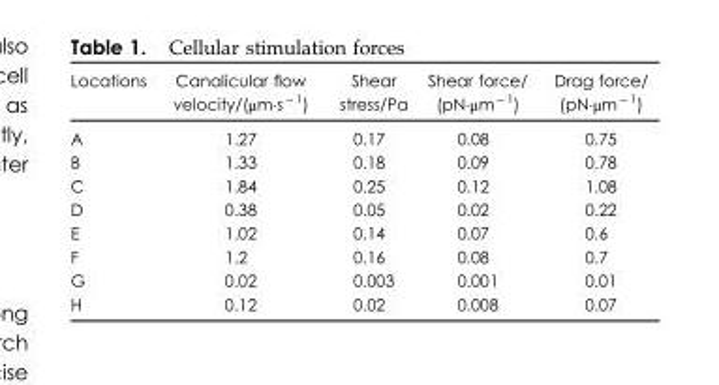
<table><thead><tr><td>Locations</td><td>Canalicular flow velocity/(μm·s <sup>− 1</sup>)</td><td>Shear stress/Pa</td><td>Shear force/ (pN·μm <sup>− 1</sup>)</td><td>Drag force/ (pN·μm <sup>− 1</sup>)</td></tr></thead><tbody><tr><td>A</td><td>1.27</td><td>0.17</td><td>0.08</td><td>0.75</td></tr><tr><td>B</td><td>1.33</td><td>0.18</td><td>0.09</td><td>0.78</td></tr><tr><td>C</td><td>1.84</td><td>0.25</td><td>0.12</td><td>1.08</td></tr><tr><td>D</td><td>0.38</td><td>0.05</td><td>0.02</td><td>0.22</td></tr><tr><td>E</td><td>1.02</td><td>0.14</td><td>0.07</td><td>0.6</td></tr><tr><td>F</td><td>1.2</td><td>0.16</td><td>0.08</td><td>0.7</td></tr><tr><td>G</td><td>0.02</td><td>0.003</td><td>0.001</td><td>0.01</td></tr><tr><td>H</td><td>0.12</td><td>0.02</td><td>0.008</td><td>0.07</td></tr></tbody></table>